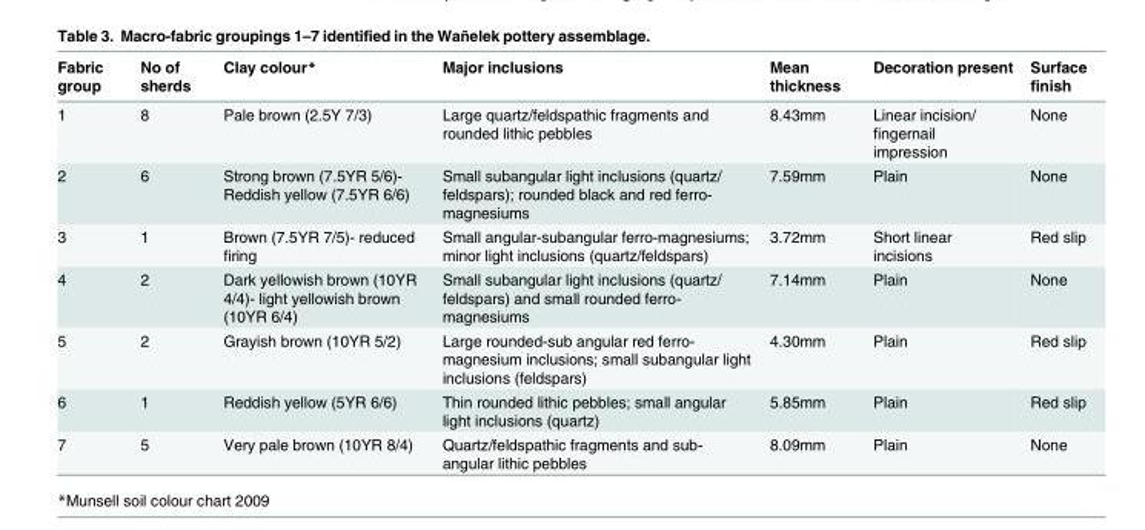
<table><thead><tr><td>Fabric group</td><td>No of sherds</td><td>Clay colour*</td><td>Major inclusions</td><td>Mean thickness</td><td>Decoration present</td><td>Surface finish</td></tr></thead><tbody><tr><td>1</td><td>8</td><td>Pale brown (2.5Y 7/3)</td><td>Large quartz/feldspathic fragments and rounded lithic pebbles</td><td>8.43mm</td><td>Linear incision/ fingernail impression</td><td>None</td></tr><tr><td>2</td><td>6</td><td>Strong brown (7.5YR 5/6)- Reddish yellow (7.5YR 6/6)</td><td>Small subangular light inclusions (quartz/ feldspars); rounded black and red ferro- magnesiums</td><td>7.59mm</td><td>Plain</td><td>None</td></tr><tr><td>3</td><td>1</td><td>Brown (7.5YR 7/5)- reduced firing</td><td>Small angular-subangular ferro-magnesiums; minor light inclusions (quartz/feldspars)</td><td>3.72mm</td><td>Short linear incisions</td><td>Red slip</td></tr><tr><td>4</td><td>2</td><td>Dark yellowish brown (10YR 4/4)- light yellowish brown (10YR 6/4)</td><td>Small subangular light inclusions (quartz/ feldspars) and small rounded ferro- magnesiums</td><td>7.14mm</td><td>Plain</td><td>None</td></tr><tr><td>5</td><td>2</td><td>Grayish brown (10YR 5/2)</td><td>Large rounded-sub angular red ferro- magnesium inclusions; small subangular light inclusions (feldspars)</td><td>4.30mm</td><td>Plain</td><td>Red slip</td></tr><tr><td>6</td><td>1</td><td>Reddish yellow (5YR 6/6)</td><td>Thin rounded lithic pebbles; small angular light inclusions (quartz)</td><td>5.85mm</td><td>Plain</td><td>Red slip</td></tr><tr><td>7</td><td>5</td><td>Very pale brown (10YR 8/4)</td><td>Quartz/feldspathic fragments and sub- angular lithic pebbles</td><td>8.09mm</td><td>Plain</td><td>None</td></tr></tbody></table>